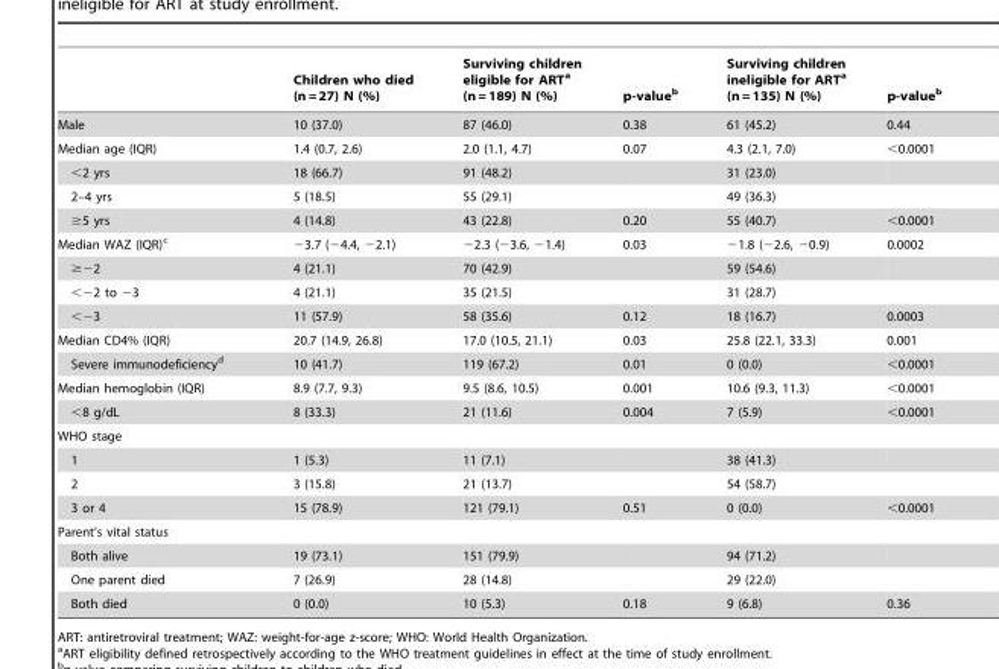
<table><thead><tr><td></td><td>Children who died (n = 27) N (%)</td><td>Surviving children eligible for ART<sup>a</sup> (n = 189) N (%)</td><td>p-value<sup>b</sup></td><td>Surviving children ineligible for ART<sup>a</sup> (n = 135) N (%)</td><td>p-value<sup>b</sup></td></tr></thead><tbody><tr><td>Male</td><td>10 (37.0)</td><td>87 (46.0)</td><td>0.38</td><td>61 (45.2)</td><td>0.44</td></tr><tr><td>Median age (IQR)</td><td>1.4 (0.7, 2.6)</td><td>2.0 (1.1, 4.7)</td><td>0.07</td><td>4.3 (2.1, 7.0)</td><td>&lt;0.0001</td></tr><tr><td>&lt;2 yrs</td><td>18 (66.7)</td><td>91 (48.2)</td><td></td><td>31 (23.0)</td><td></td></tr><tr><td>2–4 yrs</td><td>5 (18.5)</td><td>55 (29.1)</td><td></td><td>49 (36.3)</td><td></td></tr><tr><td>≥5 yrs</td><td>4 (14.8)</td><td>43 (22.8)</td><td>0.20</td><td>55 (40.7)</td><td>&lt;0.0001</td></tr><tr><td>Median WAZ (IQR)<sup>c</sup></td><td>−3.7 (−4.4, −2.1)</td><td>−2.3 (−3.6, −1.4)</td><td>0.03</td><td>−1.8 (−2.6, −0.9)</td><td>0.0002</td></tr><tr><td>≥−2</td><td>4 (21.1)</td><td>70 (42.9)</td><td></td><td>59 (54.6)</td><td></td></tr><tr><td>&lt;−2 to −3</td><td>4 (21.1)</td><td>35 (21.5)</td><td></td><td>31 (28.7)</td><td></td></tr><tr><td>&lt;−3</td><td>11 (57.9)</td><td>58 (35.6)</td><td>0.12</td><td>18 (16.7)</td><td>0.0003</td></tr><tr><td>Median CD4% (IQR)</td><td>20.7 (14.9, 26.8)</td><td>17.0 (10.5, 21.1)</td><td>0.03</td><td>25.8 (22.1, 33.3)</td><td>0.001</td></tr><tr><td>Severe immunodeficiency<sup>d</sup></td><td>10 (41.7)</td><td>119 (67.2)</td><td>0.01</td><td>0 (0.0)</td><td>&lt;0.0001</td></tr><tr><td>Median hemoglobin (IQR)</td><td>8.9 (7.7, 9.3)</td><td>9.5 (8.6, 10.5)</td><td>0.001</td><td>10.6 (9.3, 11.3)</td><td>&lt;0.0001</td></tr><tr><td>&lt;8 g/dL</td><td>8 (33.3)</td><td>21 (11.6)</td><td>0.004</td><td>7 (5.9)</td><td>&lt;0.0001</td></tr><tr><td colspan="6">WHO stage</td></tr><tr><td>1</td><td>1 (5.3)</td><td>11 (7.1)</td><td></td><td>38 (41.3)</td><td></td></tr><tr><td>2</td><td>3 (15.8)</td><td>21 (13.7)</td><td></td><td>54 (58.7)</td><td></td></tr><tr><td>3 or 4</td><td>15 (78.9)</td><td>121 (79.1)</td><td>0.51</td><td>0 (0.0)</td><td>&lt;0.0001</td></tr><tr><td colspan="6">Parent’s vital status</td></tr><tr><td>Both alive</td><td>19 (73.1)</td><td>151 (79.9)</td><td></td><td>94 (71.2)</td><td></td></tr><tr><td>One parent died</td><td>7 (26.9)</td><td>28 (14.8)</td><td></td><td>29 (22.0)</td><td></td></tr><tr><td>Both died</td><td>0 (0.0)</td><td>10 (5.3)</td><td>0.18</td><td>9 (6.8)</td><td>0.36</td></tr></tbody></table>